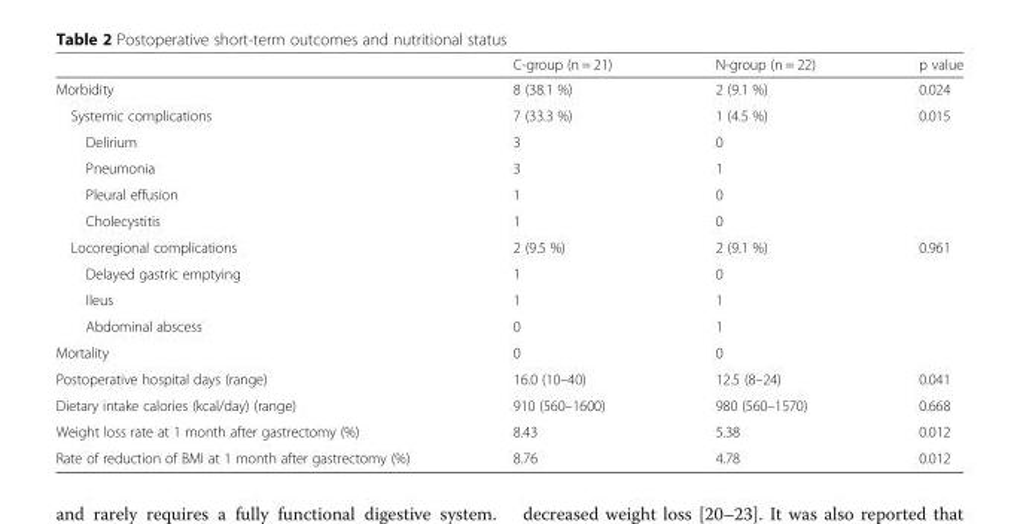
<table><thead><tr><td></td><td>C-group (n = 21)</td><td>N-group (n = 22)</td><td>p value</td></tr></thead><tbody><tr><td>Morbidity</td><td>8 (38.1 %)</td><td>2 (9.1 %)</td><td>0.024</td></tr><tr><td>Systemic complications</td><td>7 (33.3 %)</td><td>1 (4.5 %)</td><td rowspan="5">0.015</td></tr><tr><td>Delirium</td><td>3</td><td>0</td></tr><tr><td>Pneumonia</td><td>3</td><td>1</td></tr><tr><td>Pleural effusion</td><td>1</td><td>0</td></tr><tr><td>Cholecystitis</td><td>1</td><td>0</td></tr><tr><td>Locoregional complications</td><td>2 (9.5 %)</td><td>2 (9.1 %)</td><td rowspan="4">0.961</td></tr><tr><td>Delayed gastric emptying</td><td>1</td><td>0</td></tr><tr><td>Ileus</td><td>1</td><td>1</td></tr><tr><td>Abdominal abscess</td><td>0</td><td>1</td></tr><tr><td>Mortality</td><td>0</td><td>0</td><td></td></tr><tr><td>Postoperative hospital days (range)</td><td>16.0 (10–40)</td><td>12.5 (8–24)</td><td>0.041</td></tr><tr><td>Dietary intake calories (kcal/day) (range)</td><td>910 (560–1600)</td><td>980 (560–1570)</td><td>0.668</td></tr><tr><td>Weight loss rate at 1 month after gastrectomy (%)</td><td>8.43</td><td>5.38</td><td>0.012</td></tr><tr><td>Rate of reduction of BMI at 1 month after gastrectomy (%)</td><td>8.76</td><td>4.78</td><td>0.012</td></tr></tbody></table>